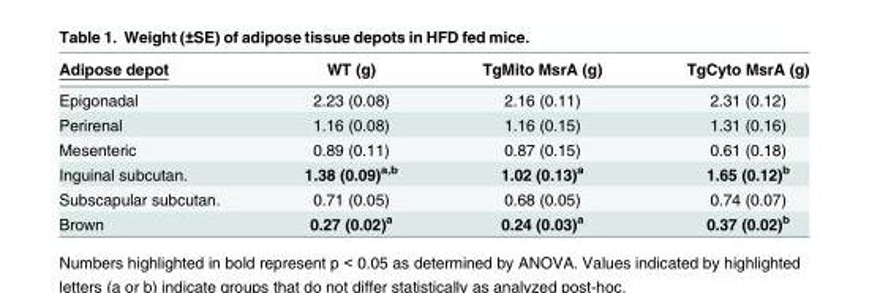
<table><thead><tr><td>Adipose depot</td><td>WT (g)</td><td>TgMito MsrA (g)</td><td>TgCyto MsrA (g)</td></tr></thead><tbody><tr><td>Epigonadal</td><td>2.23 (0.08)</td><td>2.16 (0.11)</td><td>2.31 (0.12)</td></tr><tr><td>Perirenal</td><td>1.16 (0.08)</td><td>1.16 (0.15)</td><td>1.31 (0.16)</td></tr><tr><td>Mesenteric</td><td>0.89 (0.11)</td><td>0.87 (0.15)</td><td>0.61 (0.18)</td></tr><tr><td>Inguinal subcutan.</td><td>1.38 (0.09)<sup>a,b</sup></td><td>1.02 (0.13)<sup>a</sup></td><td>1.65 (0.12)<sup>b</sup></td></tr><tr><td>Subscapular subcutan.</td><td>0.71 (0.05)</td><td>0.68 (0.05)</td><td>0.74 (0.07)</td></tr><tr><td>Brown</td><td>0.27 (0.02)<sup>a</sup></td><td>0.24 (0.03)<sup>a</sup></td><td>0.37 (0.02)<sup>b</sup></td></tr></tbody></table>